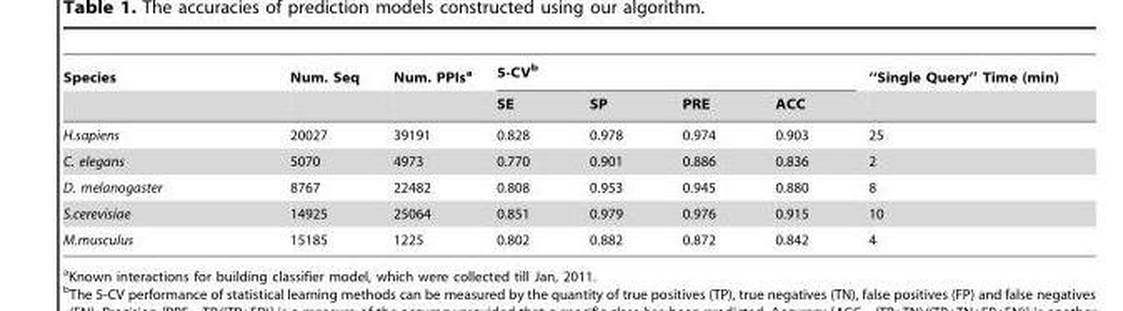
<table><thead><tr><td rowspan="2">Species</td><td rowspan="2">Num. Seq</td><td rowspan="2">Num. PPIs<sup>a</sup></td><td colspan="4">5-CV<sup>b</sup></td><td rowspan="2">‘‘Single Query’’ Time (min)</td></tr><tr><td>SE</td><td>SP</td><td>PRE</td><td>ACC</td></tr></thead><tbody><tr><td>H.sapiens</td><td>20027</td><td>39191</td><td>0.828</td><td>0.978</td><td>0.974</td><td>0.903</td><td>25</td></tr><tr><td>C. elegans</td><td>5070</td><td>4973</td><td>0.770</td><td>0.901</td><td>0.886</td><td>0.836</td><td>2</td></tr><tr><td>D. melanogaster</td><td>8767</td><td>22482</td><td>0.808</td><td>0.953</td><td>0.945</td><td>0.880</td><td>8</td></tr><tr><td>S.cerevisiae</td><td>14925</td><td>25064</td><td>0.851</td><td>0.979</td><td>0.976</td><td>0.915</td><td>10</td></tr><tr><td>M.musculus</td><td>15185</td><td>1225</td><td>0.802</td><td>0.882</td><td>0.872</td><td>0.842</td><td>4</td></tr></tbody></table>